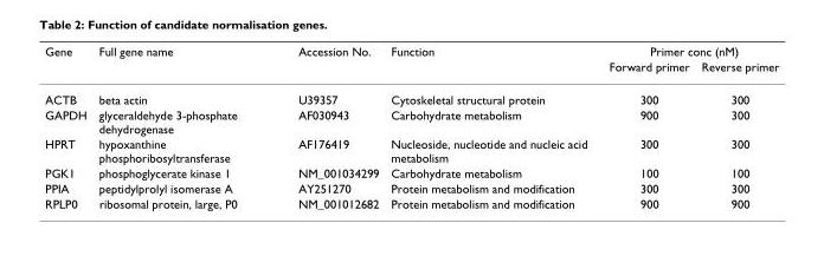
<table><thead><tr><td rowspan="2">Gene</td><td rowspan="2">Full gene name</td><td rowspan="2">Accession No.</td><td rowspan="2">Function</td><td colspan="2">Primer conc (nM)</td></tr><tr><td>Forward primer</td><td>Reverse primer</td></tr></thead><tbody><tr><td>ACTB</td><td>beta actin</td><td>U39357</td><td>Cytoskeletal structural protein</td><td>300</td><td>300</td></tr><tr><td>GAPDH</td><td>glyceraldehyde 3-phosphate dehydrogenase</td><td>AF030943</td><td>Carbohydrate metabolism</td><td>900</td><td>300</td></tr><tr><td>HPRT</td><td>hypoxanthine phosphoribosyltransferase</td><td>AF176419</td><td>Nucleoside, nucleotide and nucleic acid metabolism</td><td>300</td><td>300</td></tr><tr><td>PGK1</td><td>phosphoglycerate kinase 1</td><td>NM_001034299</td><td>Carbohydrate metabolism</td><td>100</td><td>100</td></tr><tr><td>PPIA</td><td>peptidylprolyl isomerase A</td><td>AY251270</td><td>Protein metabolism and modification</td><td>300</td><td>300</td></tr><tr><td>RPLP0</td><td>ribosomal protein, large, P0</td><td>NM_001012682</td><td>Protein metabolism and modification</td><td>900</td><td>900</td></tr></tbody></table>